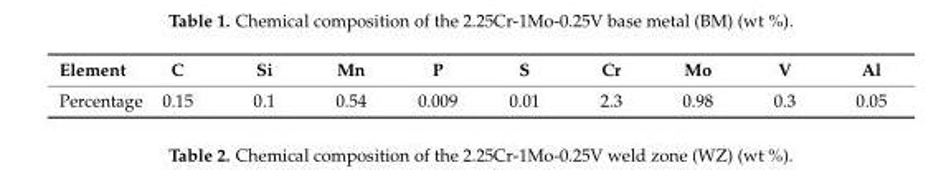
<table><thead><tr><td>Element</td><td>C</td><td>Si</td><td>Mn</td><td>P</td><td>S</td><td>Cr</td><td>Mo</td><td>V</td><td>Al</td></tr></thead><tbody><tr><td>Percentage</td><td>0.15</td><td>0.1</td><td>0.54</td><td>0.009</td><td>0.01</td><td>2.3</td><td>0.98</td><td>0.3</td><td>0.05</td></tr></tbody></table>